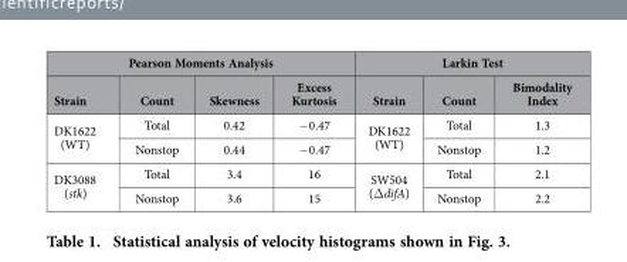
<table><thead><tr><td colspan="4">Pearson Moments Analysis</td><td colspan="3">Larkin Test</td></tr><tr><td>Strain</td><td>Count</td><td>Skewness</td><td>Excess Kurtosis</td><td>Strain</td><td>Count</td><td>Bimodality Index</td></tr></thead><tbody><tr><td rowspan="2">DK1622 (WT)</td><td>Total</td><td>0.42</td><td>− 0.47</td><td rowspan="2">DK1622 (WT)</td><td>Total</td><td>1.3</td></tr><tr><td>Nonstop</td><td>0.44</td><td>− 0.47</td><td>Nonstop</td><td>1.2</td></tr><tr><td rowspan="2">DK3088 (stk)</td><td>Total</td><td>3.4</td><td>16</td><td rowspan="2">SW504 (ΔdifA)</td><td>Total</td><td>2.1</td></tr><tr><td>Nonstop</td><td>3.6</td><td>15</td><td>Nonstop</td><td>2.2</td></tr></tbody></table>